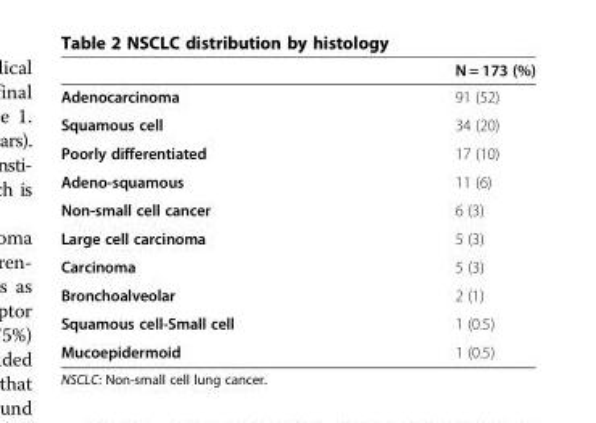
<table><thead><tr><td></td><td>N = 173 (%)</td></tr></thead><tbody><tr><td>Adenocarcinoma</td><td>91 (52)</td></tr><tr><td>Squamous cell</td><td>34 (20)</td></tr><tr><td>Poorly differentiated</td><td>17 (10)</td></tr><tr><td>Adeno-squamous</td><td>11 (6)</td></tr><tr><td>Non-small cell cancer</td><td>6 (3)</td></tr><tr><td>Large cell carcinoma</td><td>5 (3)</td></tr><tr><td>Carcinoma</td><td>5 (3)</td></tr><tr><td>Bronchoalveolar</td><td>2 (1)</td></tr><tr><td>Squamous cell-Small cell</td><td>1 (0.5)</td></tr><tr><td>Mucoepidermoid</td><td>1 (0.5)</td></tr></tbody></table>